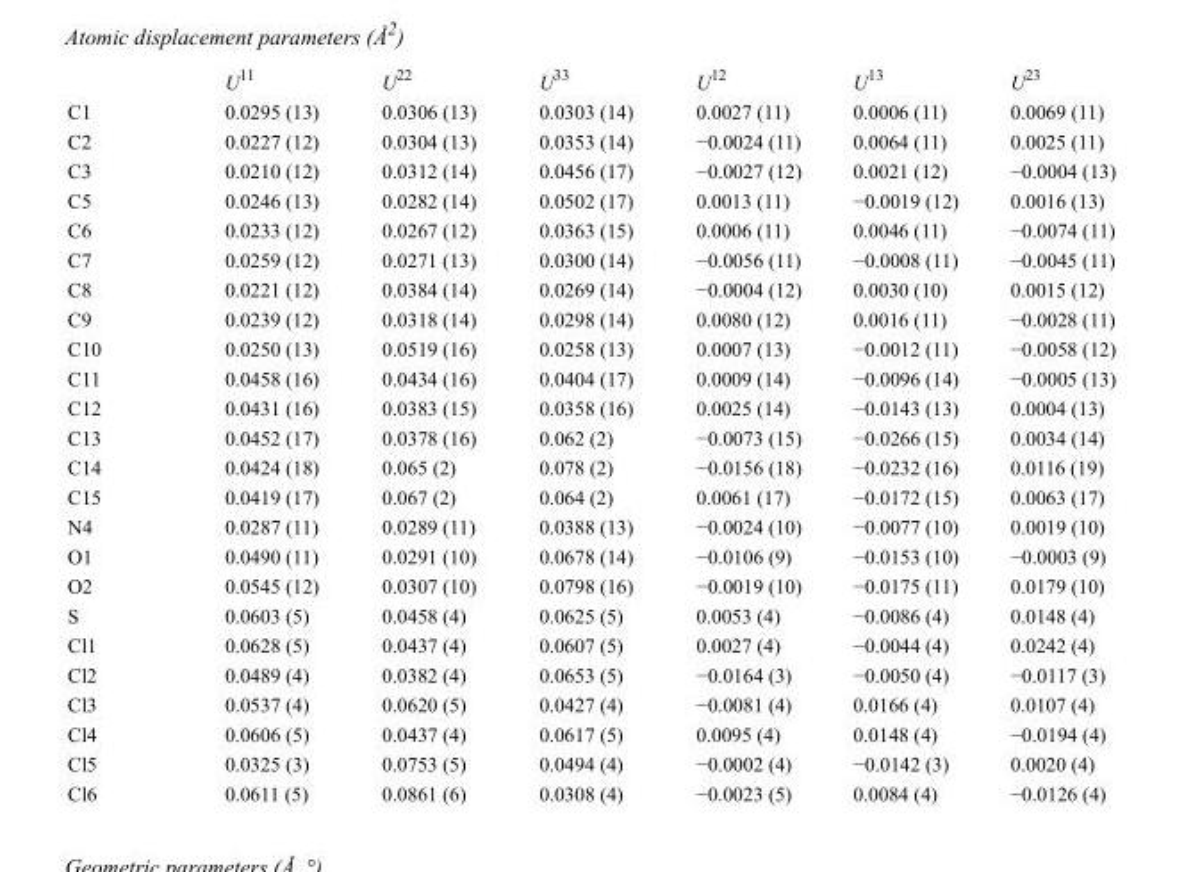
<table><thead><tr><td></td><td>U<sup>11</sup></td><td>U<sup>22</sup></td><td>U<sup>33</sup></td><td>U<sup>12</sup></td><td>U<sup>13</sup></td><td>U<sup>23</sup></td></tr></thead><tbody><tr><td>C1</td><td>0.0295 (13)</td><td>0.0306 (13)</td><td>0.0303 (14)</td><td>0.0027 (11)</td><td>0.0006 (11)</td><td>0.0069 (11)</td></tr><tr><td>C2</td><td>0.0227 (12)</td><td>0.0304 (13)</td><td>0.0353 (14)</td><td>−0.0024 (11)</td><td>0.0064 (11)</td><td>0.0025 (11)</td></tr><tr><td>C3</td><td>0.0210 (12)</td><td>0.0312 (14)</td><td>0.0456 (17)</td><td>−0.0027 (12)</td><td>0.0021 (12)</td><td>−0.0004 (13)</td></tr><tr><td>C5</td><td>0.0246 (13)</td><td>0.0282 (14)</td><td>0.0502 (17)</td><td>0.0013 (11)</td><td>−0.0019 (12)</td><td>0.0016 (13)</td></tr><tr><td>C6</td><td>0.0233 (12)</td><td>0.0267 (12)</td><td>0.0363 (15)</td><td>0.0006 (11)</td><td>0.0046 (11)</td><td>−0.0074 (11)</td></tr><tr><td>C7</td><td>0.0259 (12)</td><td>0.0271 (13)</td><td>0.0300 (14)</td><td>−0.0056 (11)</td><td>−0.0008 (11)</td><td>−0.0045 (11)</td></tr><tr><td>C8</td><td>0.0221 (12)</td><td>0.0384 (14)</td><td>0.0269 (14)</td><td>−0.0004 (12)</td><td>0.0030 (10)</td><td>0.0015 (12)</td></tr><tr><td>C9</td><td>0.0239 (12)</td><td>0.0318 (14)</td><td>0.0298 (14)</td><td>0.0080 (12)</td><td>0.0016 (11)</td><td>−0.0028 (11)</td></tr><tr><td>C10</td><td>0.0250 (13)</td><td>0.0519 (16)</td><td>0.0258 (13)</td><td>0.0007 (13)</td><td>−0.0012 (11)</td><td>−0.0058 (12)</td></tr><tr><td>C11</td><td>0.0458 (16)</td><td>0.0434 (16)</td><td>0.0404 (17)</td><td>0.0009 (14)</td><td>−0.0096 (14)</td><td>−0.0005 (13)</td></tr><tr><td>C12</td><td>0.0431 (16)</td><td>0.0383 (15)</td><td>0.0358 (16)</td><td>0.0025 (14)</td><td>−0.0143 (13)</td><td>0.0004 (13)</td></tr><tr><td>C13</td><td>0.0452 (17)</td><td>0.0378 (16)</td><td>0.062 (2)</td><td>−0.0073 (15)</td><td>−0.0266 (15)</td><td>0.0034 (14)</td></tr><tr><td>C14</td><td>0.0424 (18)</td><td>0.065 (2)</td><td>0.078 (2)</td><td>−0.0156 (18)</td><td>−0.0232 (16)</td><td>0.0116 (19)</td></tr><tr><td>C15</td><td>0.0419 (17)</td><td>0.067 (2)</td><td>0.064 (2)</td><td>0.0061 (17)</td><td>−0.0172 (15)</td><td>0.0063 (17)</td></tr><tr><td>N4</td><td>0.0287 (11)</td><td>0.0289 (11)</td><td>0.0388 (13)</td><td>−0.0024 (10)</td><td>−0.0077 (10)</td><td>0.0019 (10)</td></tr><tr><td>O1</td><td>0.0490 (11)</td><td>0.0291 (10)</td><td>0.0678 (14)</td><td>−0.0106 (9)</td><td>−0.0153 (10)</td><td>−0.0003 (9)</td></tr><tr><td>O2</td><td>0.0545 (12)</td><td>0.0307 (10)</td><td>0.0798 (16)</td><td>−0.0019 (10)</td><td>−0.0175 (11)</td><td>0.0179 (10)</td></tr><tr><td>S</td><td>0.0603 (5)</td><td>0.0458 (4)</td><td>0.0625 (5)</td><td>0.0053 (4)</td><td>−0.0086 (4)</td><td>0.0148 (4)</td></tr><tr><td>Cl1</td><td>0.0628 (5)</td><td>0.0437 (4)</td><td>0.0607 (5)</td><td>0.0027 (4)</td><td>−0.0044 (4)</td><td>0.0242 (4)</td></tr><tr><td>Cl2</td><td>0.0489 (4)</td><td>0.0382 (4)</td><td>0.0653 (5)</td><td>−0.0164 (3)</td><td>−0.0050 (4)</td><td>−0.0117 (3)</td></tr><tr><td>Cl3</td><td>0.0537 (4)</td><td>0.0620 (5)</td><td>0.0427 (4)</td><td>−0.0081 (4)</td><td>0.0166 (4)</td><td>0.0107 (4)</td></tr><tr><td>Cl4</td><td>0.0606 (5)</td><td>0.0437 (4)</td><td>0.0617 (5)</td><td>0.0095 (4)</td><td>0.0148 (4)</td><td>−0.0194 (4)</td></tr><tr><td>Cl5</td><td>0.0325 (3)</td><td>0.0753 (5)</td><td>0.0494 (4)</td><td>−0.0002 (4)</td><td>−0.0142 (3)</td><td>0.0020 (4)</td></tr><tr><td>Cl6</td><td>0.0611 (5)</td><td>0.0861 (6)</td><td>0.0308 (4)</td><td>−0.0023 (5)</td><td>0.0084 (4)</td><td>−0.0126 (4)</td></tr></tbody></table>